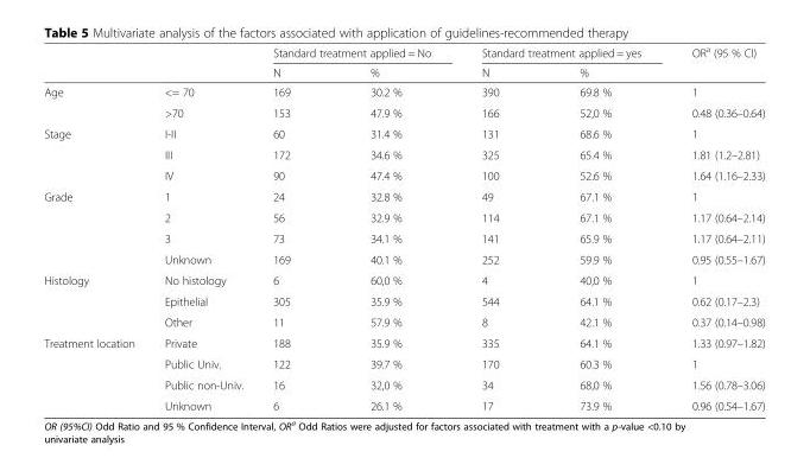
<table><thead><tr><td rowspan="2"></td><td rowspan="2"></td><td colspan="2">Standard treatment applied = No</td><td colspan="2">Standard treatment applied = yes</td><td rowspan="2">OR<sup>a</sup> (95 % CI)</td></tr><tr><td>N</td><td>%</td><td>N</td><td>%</td></tr></thead><tbody><tr><td rowspan="2">Age</td><td>&lt;= 70</td><td>169</td><td>30.2 %</td><td>390</td><td>69.8 %</td><td>1</td></tr><tr><td>&gt;70</td><td>153</td><td>47.9 %</td><td>166</td><td>52,0 %</td><td>0.48 (0.36–0.64)</td></tr><tr><td rowspan="3">Stage</td><td>I-II</td><td>60</td><td>31.4 %</td><td>131</td><td>68.6 %</td><td>1</td></tr><tr><td>III</td><td>172</td><td>34.6 %</td><td>325</td><td>65.4 %</td><td>1.81 (1.2–2.81)</td></tr><tr><td>IV</td><td>90</td><td>47.4 %</td><td>100</td><td>52.6 %</td><td>1.64 (1.16–2.33)</td></tr><tr><td rowspan="4">Grade</td><td>1</td><td>24</td><td>32.8 %</td><td>49</td><td>67.1 %</td><td>1</td></tr><tr><td>2</td><td>56</td><td>32.9 %</td><td>114</td><td>67.1 %</td><td>1.17 (0.64–2.14)</td></tr><tr><td>3</td><td>73</td><td>34.1 %</td><td>141</td><td>65.9 %</td><td>1.17 (0.64–2.11)</td></tr><tr><td>Unknown</td><td>169</td><td>40.1 %</td><td>252</td><td>59.9 %</td><td>0.95 (0.55–1.67)</td></tr><tr><td rowspan="3">Histology</td><td>No histology</td><td>6</td><td>60,0 %</td><td>4</td><td>40,0 %</td><td>1</td></tr><tr><td>Epithelial</td><td>305</td><td>35.9 %</td><td>544</td><td>64.1 %</td><td>0.62 (0.17–2.3)</td></tr><tr><td>Other</td><td>11</td><td>57.9 %</td><td>8</td><td>42.1 %</td><td>0.37 (0.14–0.98)</td></tr><tr><td rowspan="4">Treatment location</td><td>Private</td><td>188</td><td>35.9 %</td><td>335</td><td>64.1 %</td><td>1.33 (0.97–1.82)</td></tr><tr><td>Public Univ.</td><td>122</td><td>39.7 %</td><td>170</td><td>60.3 %</td><td>1</td></tr><tr><td>Public non-Univ.</td><td>16</td><td>32,0 %</td><td>34</td><td>68,0 %</td><td>1.56 (0.78–3.06)</td></tr><tr><td>Unknown</td><td>6</td><td>26.1 %</td><td>17</td><td>73.9 %</td><td>0.96 (0.54–1.67)</td></tr></tbody></table>